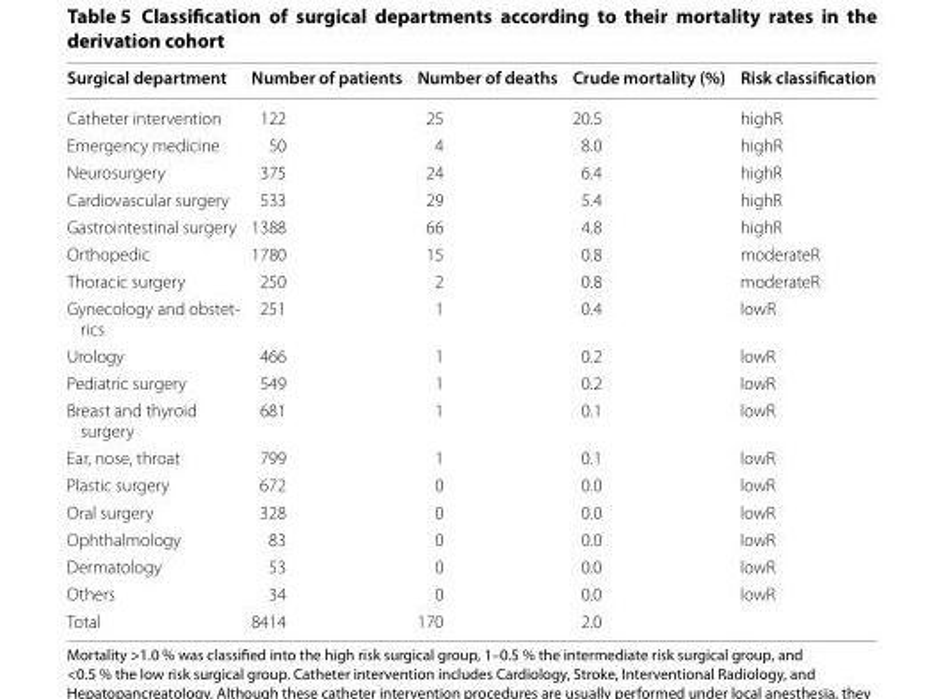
<table><thead><tr><td>Surgical department</td><td>Number of patients</td><td>Number of deaths</td><td>Crude mortality (%)</td><td>Risk classification</td></tr></thead><tbody><tr><td>Catheter intervention</td><td>122</td><td>25</td><td>20.5</td><td>highR</td></tr><tr><td>Emergency medicine</td><td>50</td><td>4</td><td>8.0</td><td>highR</td></tr><tr><td>Neurosurgery</td><td>375</td><td>24</td><td>6.4</td><td>highR</td></tr><tr><td>Cardiovascular surgery</td><td>533</td><td>29</td><td>5.4</td><td>highR</td></tr><tr><td>Gastrointestinal surgery</td><td>1388</td><td>66</td><td>4.8</td><td>highR</td></tr><tr><td>Orthopedic</td><td>1780</td><td>15</td><td>0.8</td><td>moderateR</td></tr><tr><td>Thoracic surgery</td><td>250</td><td>2</td><td>0.8</td><td>moderateR</td></tr><tr><td>Gynecology and obstet- rics</td><td>251</td><td>1</td><td>0.4</td><td>lowR</td></tr><tr><td>Urology</td><td>466</td><td>1</td><td>0.2</td><td>lowR</td></tr><tr><td>Pediatric surgery</td><td>549</td><td>1</td><td>0.2</td><td>lowR</td></tr><tr><td>Breast and thyroid surgery</td><td>681</td><td>1</td><td>0.1</td><td>lowR</td></tr><tr><td>Ear, nose, throat</td><td>799</td><td>1</td><td>0.1</td><td>lowR</td></tr><tr><td>Plastic surgery</td><td>672</td><td>0</td><td>0.0</td><td>lowR</td></tr><tr><td>Oral surgery</td><td>328</td><td>0</td><td>0.0</td><td>lowR</td></tr><tr><td>Ophthalmology</td><td>83</td><td>0</td><td>0.0</td><td>lowR</td></tr><tr><td>Dermatology</td><td>53</td><td>0</td><td>0.0</td><td>lowR</td></tr><tr><td>Others</td><td>34</td><td>0</td><td>0.0</td><td>lowR</td></tr><tr><td>Total</td><td>8414</td><td>170</td><td>2.0</td><td></td></tr></tbody></table>